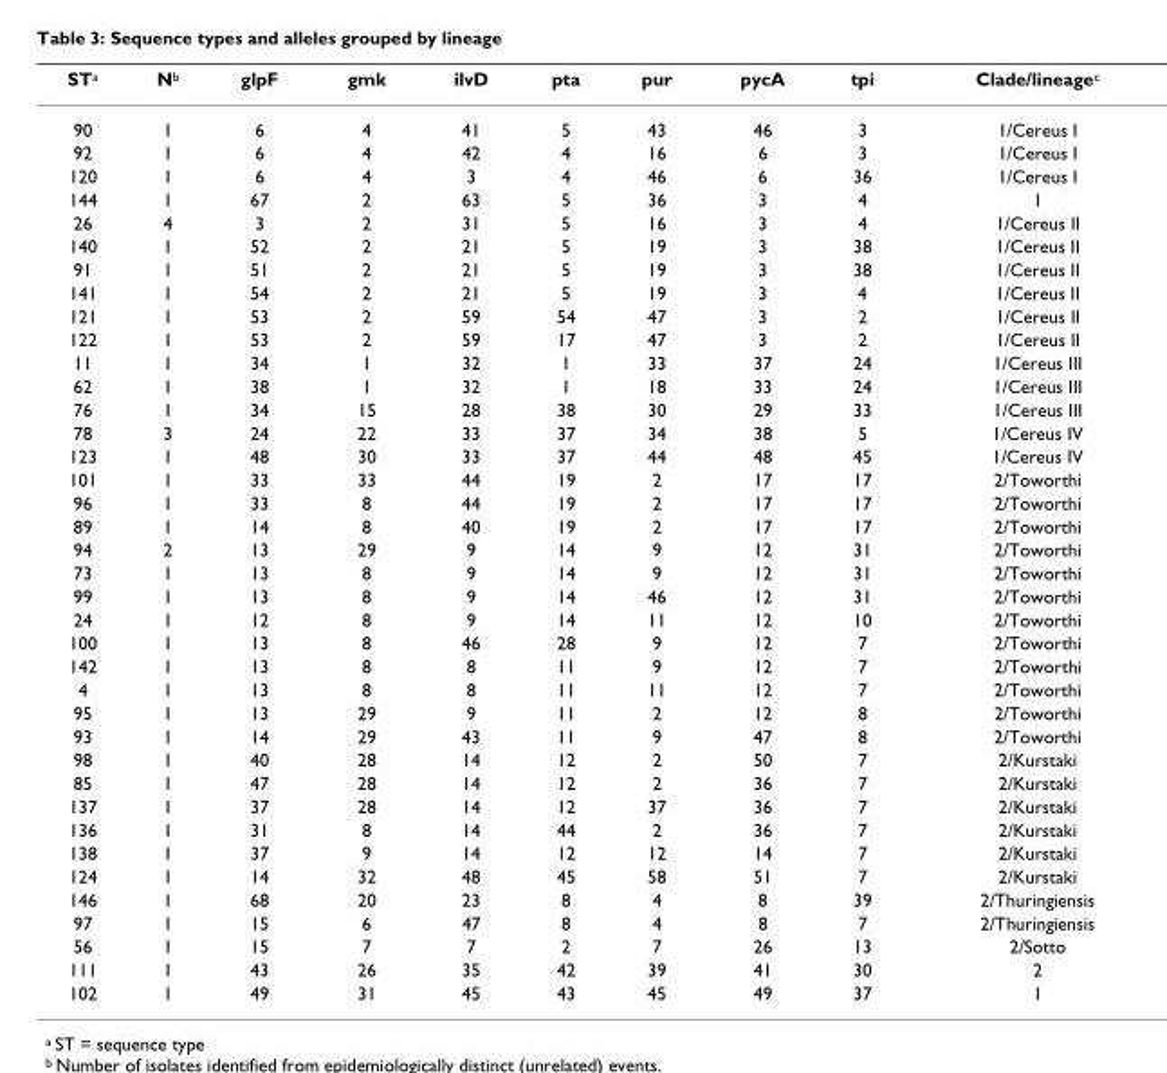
<table><thead><tr><td>ST<sup>a</sup></td><td>N<sup>b</sup></td><td>glpF</td><td>gmk</td><td>ilvD</td><td>pta</td><td>pur</td><td>pycA</td><td>tpi</td><td>Clade/lineage<sup>c</sup></td></tr></thead><tbody><tr><td>90</td><td>1</td><td>6</td><td>4</td><td>41</td><td>5</td><td>43</td><td>46</td><td>3</td><td>1/Cereus I</td></tr><tr><td>92</td><td>1</td><td>6</td><td>4</td><td>42</td><td>4</td><td>16</td><td>6</td><td>3</td><td>1/Cereus I</td></tr><tr><td>120</td><td>1</td><td>6</td><td>4</td><td>3</td><td>4</td><td>46</td><td>6</td><td>36</td><td>1/Cereus I</td></tr><tr><td>144</td><td>1</td><td>67</td><td>2</td><td>63</td><td>5</td><td>36</td><td>3</td><td>4</td><td>1</td></tr><tr><td>26</td><td>4</td><td>3</td><td>2</td><td>31</td><td>5</td><td>16</td><td>3</td><td>4</td><td>1/Cereus II</td></tr><tr><td>140</td><td>1</td><td>52</td><td>2</td><td>21</td><td>5</td><td>19</td><td>3</td><td>38</td><td>1/Cereus II</td></tr><tr><td>91</td><td>1</td><td>51</td><td>2</td><td>21</td><td>5</td><td>19</td><td>3</td><td>38</td><td>1/Cereus II</td></tr><tr><td>141</td><td>1</td><td>54</td><td>2</td><td>21</td><td>5</td><td>19</td><td>3</td><td>4</td><td>1/Cereus II</td></tr><tr><td>121</td><td>1</td><td>53</td><td>2</td><td>59</td><td>54</td><td>47</td><td>3</td><td>2</td><td>1/Cereus II</td></tr><tr><td>122</td><td>1</td><td>53</td><td>2</td><td>59</td><td>17</td><td>47</td><td>3</td><td>2</td><td>1/Cereus II</td></tr><tr><td>11</td><td>1</td><td>34</td><td>1</td><td>32</td><td>1</td><td>33</td><td>37</td><td>24</td><td>1/Cereus III</td></tr><tr><td>62</td><td>1</td><td>38</td><td>1</td><td>32</td><td>1</td><td>18</td><td>33</td><td>24</td><td>1/Cereus III</td></tr><tr><td>76</td><td>1</td><td>34</td><td>15</td><td>28</td><td>38</td><td>30</td><td>29</td><td>33</td><td>1/Cereus III</td></tr><tr><td>78</td><td>3</td><td>24</td><td>22</td><td>33</td><td>37</td><td>34</td><td>38</td><td>5</td><td>1/Cereus IV</td></tr><tr><td>123</td><td>1</td><td>48</td><td>30</td><td>33</td><td>37</td><td>44</td><td>48</td><td>45</td><td>1/Cereus IV</td></tr><tr><td>101</td><td>1</td><td>33</td><td>33</td><td>44</td><td>19</td><td>2</td><td>17</td><td>17</td><td>2/Toworthi</td></tr><tr><td>96</td><td>1</td><td>33</td><td>8</td><td>44</td><td>19</td><td>2</td><td>17</td><td>17</td><td>2/Toworthi</td></tr><tr><td>89</td><td>1</td><td>14</td><td>8</td><td>40</td><td>19</td><td>2</td><td>17</td><td>17</td><td>2/Toworthi</td></tr><tr><td>94</td><td>2</td><td>13</td><td>29</td><td>9</td><td>14</td><td>9</td><td>12</td><td>31</td><td>2/Toworthi</td></tr><tr><td>73</td><td>1</td><td>13</td><td>8</td><td>9</td><td>14</td><td>9</td><td>12</td><td>31</td><td>2/Toworthi</td></tr><tr><td>99</td><td>1</td><td>13</td><td>8</td><td>9</td><td>14</td><td>46</td><td>12</td><td>31</td><td>2/Toworthi</td></tr><tr><td>24</td><td>1</td><td>12</td><td>8</td><td>9</td><td>14</td><td>11</td><td>12</td><td>10</td><td>2/Toworthi</td></tr><tr><td>100</td><td>1</td><td>13</td><td>8</td><td>46</td><td>28</td><td>9</td><td>12</td><td>7</td><td>2/Toworthi</td></tr><tr><td>142</td><td>1</td><td>13</td><td>8</td><td>8</td><td>11</td><td>9</td><td>12</td><td>7</td><td>2/Toworthi</td></tr><tr><td>4</td><td>1</td><td>13</td><td>8</td><td>8</td><td>11</td><td>11</td><td>12</td><td>7</td><td>2/Toworthi</td></tr><tr><td>95</td><td>1</td><td>13</td><td>29</td><td>9</td><td>11</td><td>2</td><td>12</td><td>8</td><td>2/Toworthi</td></tr><tr><td>93</td><td>1</td><td>14</td><td>29</td><td>43</td><td>11</td><td>9</td><td>47</td><td>8</td><td>2/Toworthi</td></tr><tr><td>98</td><td>1</td><td>40</td><td>28</td><td>14</td><td>12</td><td>2</td><td>50</td><td>7</td><td>2/Kurstaki</td></tr><tr><td>85</td><td>1</td><td>47</td><td>28</td><td>14</td><td>12</td><td>2</td><td>36</td><td>7</td><td>2/Kurstaki</td></tr><tr><td>137</td><td>1</td><td>37</td><td>28</td><td>14</td><td>12</td><td>37</td><td>36</td><td>7</td><td>2/Kurstaki</td></tr><tr><td>136</td><td>1</td><td>31</td><td>8</td><td>14</td><td>44</td><td>2</td><td>36</td><td>7</td><td>2/Kurstaki</td></tr><tr><td>138</td><td>1</td><td>37</td><td>9</td><td>14</td><td>12</td><td>12</td><td>14</td><td>7</td><td>2/Kurstaki</td></tr><tr><td>124</td><td>1</td><td>14</td><td>32</td><td>48</td><td>45</td><td>58</td><td>51</td><td>7</td><td>2/Kurstaki</td></tr><tr><td>146</td><td>1</td><td>68</td><td>20</td><td>23</td><td>8</td><td>4</td><td>8</td><td>39</td><td>2/Thuringiensis</td></tr><tr><td>97</td><td>1</td><td>15</td><td>6</td><td>47</td><td>8</td><td>4</td><td>8</td><td>7</td><td>2/Thuringiensis</td></tr><tr><td>56</td><td>1</td><td>15</td><td>7</td><td>7</td><td>2</td><td>7</td><td>26</td><td>13</td><td>2/Sotto</td></tr><tr><td>111</td><td>1</td><td>43</td><td>26</td><td>35</td><td>42</td><td>39</td><td>41</td><td>30</td><td>2</td></tr><tr><td>102</td><td>1</td><td>49</td><td>31</td><td>45</td><td>43</td><td>45</td><td>49</td><td>37</td><td>1</td></tr></tbody></table>